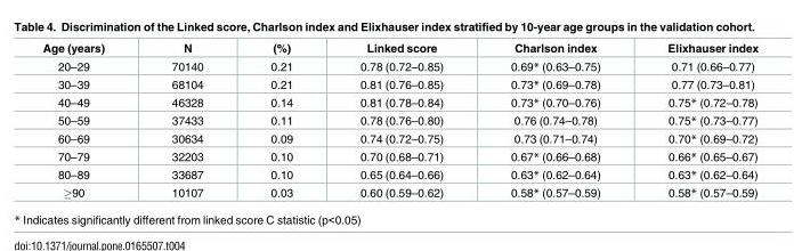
<table><thead><tr><td>Age (years)</td><td>N</td><td>(%)</td><td>Linked score</td><td>Charlson index</td><td>Elixhauser index</td></tr></thead><tbody><tr><td>20–29</td><td>70140</td><td>0.21</td><td>0.78 (0.72–0.85)</td><td>0.69* (0.63–0.75)</td><td>0.71 (0.66–0.77)</td></tr><tr><td>30–39</td><td>68104</td><td>0.21</td><td>0.81 (0.76–0.85)</td><td>0.73* (0.69–0.78)</td><td>0.77 (0.73–0.81)</td></tr><tr><td>40–49</td><td>46328</td><td>0.14</td><td>0.81 (0.78–0.84)</td><td>0.73* (0.70–0.76)</td><td>0.75* (0.72–0.78)</td></tr><tr><td>50–59</td><td>37433</td><td>0.11</td><td>0.78 (0.76–0.80)</td><td>0.76 (0.74–0.78)</td><td>0.75* (0.73–0.77)</td></tr><tr><td>60–69</td><td>30634</td><td>0.09</td><td>0.74 (0.72–0.75)</td><td>0.73 (0.71–0.74)</td><td>0.70* (0.69–0.72)</td></tr><tr><td>70–79</td><td>32203</td><td>0.10</td><td>0.70 (0.68–0.71)</td><td>0.67* (0.66–0.68)</td><td>0.66* (0.65–0.67)</td></tr><tr><td>80–89</td><td>33687</td><td>0.10</td><td>0.65 (0.64–0.66)</td><td>0.63* (0.62–0.64)</td><td>0.63* (0.62–0.64)</td></tr><tr><td>≥90</td><td>10107</td><td>0.03</td><td>0.60 (0.59–0.62)</td><td>0.58* (0.57–0.59)</td><td>0.58* (0.57–0.59)</td></tr></tbody></table>